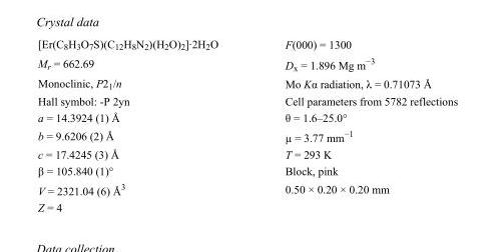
<table><tbody><tr><td>[Er(C<sub>8</sub>H<sub>3</sub>O<sub>7</sub>S)(C<sub>12</sub>H<sub>8</sub>N<sub>2</sub>)(H<sub>2</sub>O)<sub>2</sub>]·2H<sub>2</sub>O</td><td>F(000) = 1300</td></tr><tr><td>M<sub>r</sub> = 662.69</td><td>D<sub>x</sub> = 1.896 Mg m<sup>−3</sup></td></tr><tr><td>Monoclinic, P2<sub>1</sub>/n</td><td>Mo Kα radiation, λ = 0.71073 Å</td></tr><tr><td>Hall symbol: -P 2yn</td><td>Cell parameters from 5782 reflections</td></tr><tr><td>a = 14.3924 (1) Å</td><td>θ = 1.6–25.0°</td></tr><tr><td>b = 9.6206 (2) Å</td><td>µ = 3.77 mm<sup>−1</sup></td></tr><tr><td>c = 17.4245 (3) Å</td><td>T = 293 K</td></tr><tr><td>β = 105.840 (1)°</td><td>Block, pink</td></tr><tr><td>V = 2321.04 (6) Å<sup>3</sup></td><td>0.50 × 0.20 × 0.20 mm</td></tr><tr><td>Z = 4</td><td></td></tr></tbody></table>